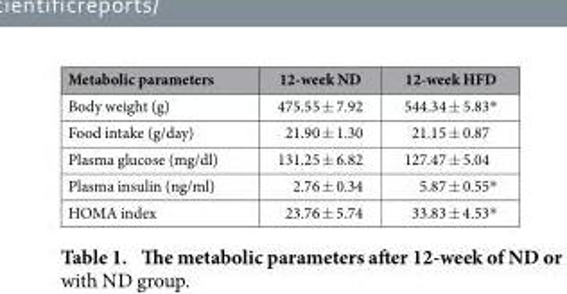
<table><thead><tr><td>Metabolic parameters</td><td>12-week ND</td><td>12-week HFD</td></tr></thead><tbody><tr><td>Body weight (g)</td><td>475.55 ± 7.92</td><td>544.34 ± 5.83*</td></tr><tr><td>Food intake (g/day)</td><td>21.90 ± 1.30</td><td>21.15 ± 0.87</td></tr><tr><td>Plasma glucose (mg/dl)</td><td>131.25 ± 6.82</td><td>127.47 ± 5.04</td></tr><tr><td>Plasma insulin (ng/ml)</td><td>2.76 ± 0.34</td><td>5.87 ± 0.55*</td></tr><tr><td>HOMA index</td><td>23.76 ± 5.74</td><td>33.83 ± 4.53*</td></tr></tbody></table>